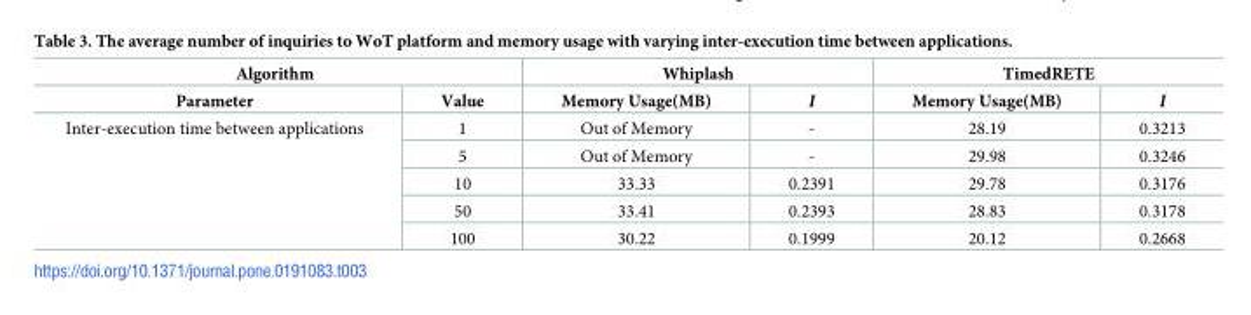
<table><thead><tr><td colspan="2">Algorithm</td><td colspan="2">Whiplash</td><td colspan="2">TimedRETE</td></tr><tr><td>Parameter</td><td>Value</td><td>Memory Usage(MB)</td><td>I</td><td>Memory Usage(MB)</td><td>I</td></tr></thead><tbody><tr><td rowspan="5">Inter-execution time between applications</td><td>1</td><td>Out of Memory</td><td>-</td><td>28.19</td><td>0.3213</td></tr><tr><td>5</td><td>Out of Memory</td><td>-</td><td>29.98</td><td>0.3246</td></tr><tr><td>10</td><td>33.33</td><td>0.2391</td><td>29.78</td><td>0.3176</td></tr><tr><td>50</td><td>33.41</td><td>0.2393</td><td>28.83</td><td>0.3178</td></tr><tr><td>100</td><td>30.22</td><td>0.1999</td><td>20.12</td><td>0.2668</td></tr></tbody></table>